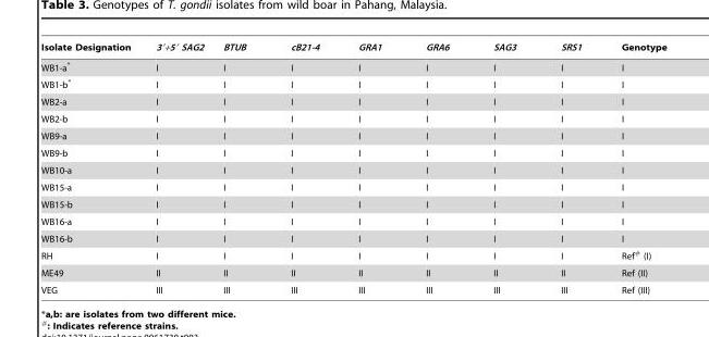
<table><thead><tr><td>Isolate Designation</td><td>3′+5′ SAG2</td><td>BTUB</td><td>cB21-4</td><td>GRA1</td><td>GRA6</td><td>SAG3</td><td>SRS1</td><td>Genotype</td></tr></thead><tbody><tr><td>WB1-a*</td><td>I</td><td>I</td><td>I</td><td>I</td><td>I</td><td>I</td><td>I</td><td>I</td></tr><tr><td>WB1-b*</td><td>I</td><td>I</td><td>I</td><td>I</td><td>I</td><td>I</td><td>I</td><td>I</td></tr><tr><td>WB2-a</td><td>I</td><td>I</td><td>I</td><td>I</td><td>I</td><td>I</td><td>I</td><td>I</td></tr><tr><td>WB2-b</td><td>I</td><td>I</td><td>I</td><td>I</td><td>I</td><td>I</td><td>I</td><td>I</td></tr><tr><td>WB9-a</td><td>I</td><td>I</td><td>I</td><td>I</td><td>I</td><td>I</td><td>I</td><td>I</td></tr><tr><td>WB9-b</td><td>I</td><td>I</td><td>I</td><td>I</td><td>I</td><td>I</td><td>I</td><td>I</td></tr><tr><td>WB10-a</td><td>I</td><td>I</td><td>I</td><td>I</td><td>I</td><td>I</td><td>I</td><td>I</td></tr><tr><td>WB15-a</td><td>I</td><td>I</td><td>I</td><td>I</td><td>I</td><td>I</td><td>I</td><td>I</td></tr><tr><td>WB15-b</td><td>I</td><td>I</td><td>I</td><td>I</td><td>I</td><td>I</td><td>I</td><td>I</td></tr><tr><td>WB16-a</td><td>I</td><td>I</td><td>I</td><td>I</td><td>I</td><td>I</td><td>I</td><td>I</td></tr><tr><td>WB16-b</td><td>I</td><td>I</td><td>I</td><td>I</td><td>I</td><td>I</td><td>I</td><td>I</td></tr><tr><td>RH</td><td>I</td><td>I</td><td>I</td><td>I</td><td>I</td><td>I</td><td>I</td><td>Ref# (I)</td></tr><tr><td>ME49</td><td>II</td><td>II</td><td>II</td><td>II</td><td>II</td><td>II</td><td>II</td><td>Ref (II)</td></tr><tr><td>VEG</td><td>III</td><td>III</td><td>III</td><td>III</td><td>III</td><td>III</td><td>III</td><td>Ref (III)</td></tr></tbody></table>